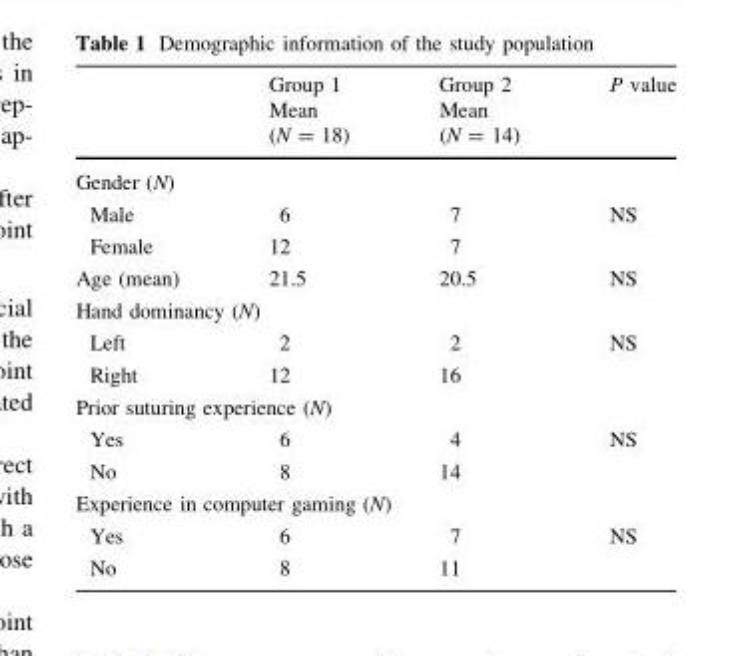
<table><thead><tr><td></td><td>Group 1 Mean (N = 18)</td><td>Group 2 Mean (N = 14)</td><td>P value</td></tr></thead><tbody><tr><td colspan="4">Gender (N)</td></tr><tr><td>Male</td><td>6</td><td>7</td><td>NS</td></tr><tr><td>Female</td><td>12</td><td>7</td><td></td></tr><tr><td>Age (mean)</td><td>21.5</td><td>20.5</td><td>NS</td></tr><tr><td colspan="4">Hand dominancy (N)</td></tr><tr><td>Left</td><td>2</td><td>2</td><td>NS</td></tr><tr><td>Right</td><td>12</td><td>16</td><td></td></tr><tr><td colspan="4">Prior suturing experience (N)</td></tr><tr><td>Yes</td><td>6</td><td>4</td><td>NS</td></tr><tr><td>No</td><td>8</td><td>14</td><td></td></tr><tr><td colspan="4">Experience in computer gaming (N)</td></tr><tr><td>Yes</td><td>6</td><td>7</td><td>NS</td></tr><tr><td>No</td><td>8</td><td>11</td><td></td></tr></tbody></table>